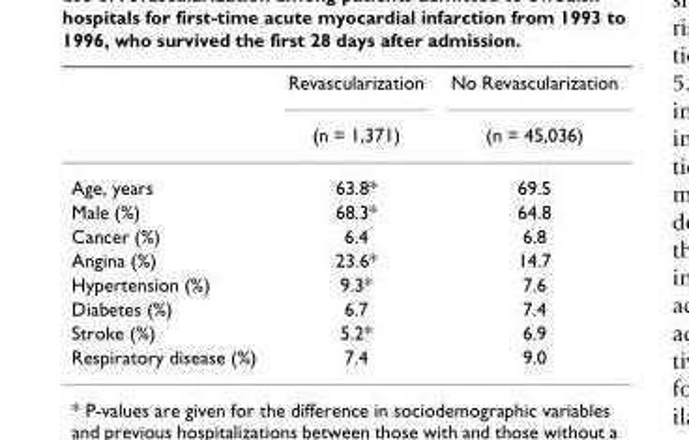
<table><thead><tr><td rowspan="2"></td><td rowspan="2">Revascularization (n = 1,371)</td><td rowspan="2">No Revascularization (n = 45,036)</td></tr><tr></tr></thead><tbody><tr><td>Age, years</td><td>63.8*</td><td>69.5</td></tr><tr><td>Male (%)</td><td>68.3*</td><td>64.8</td></tr><tr><td>Cancer (%)</td><td>6.4</td><td>6.8</td></tr><tr><td>Angina (%)</td><td>23.6*</td><td>14.7</td></tr><tr><td>Hypertension (%)</td><td>9.3*</td><td>7.6</td></tr><tr><td>Diabetes (%)</td><td>6.7</td><td>7.4</td></tr><tr><td>Stroke (%)</td><td>5.2*</td><td>6.9</td></tr><tr><td>Respiratory disease (%)</td><td>7.4</td><td>9.0</td></tr></tbody></table>